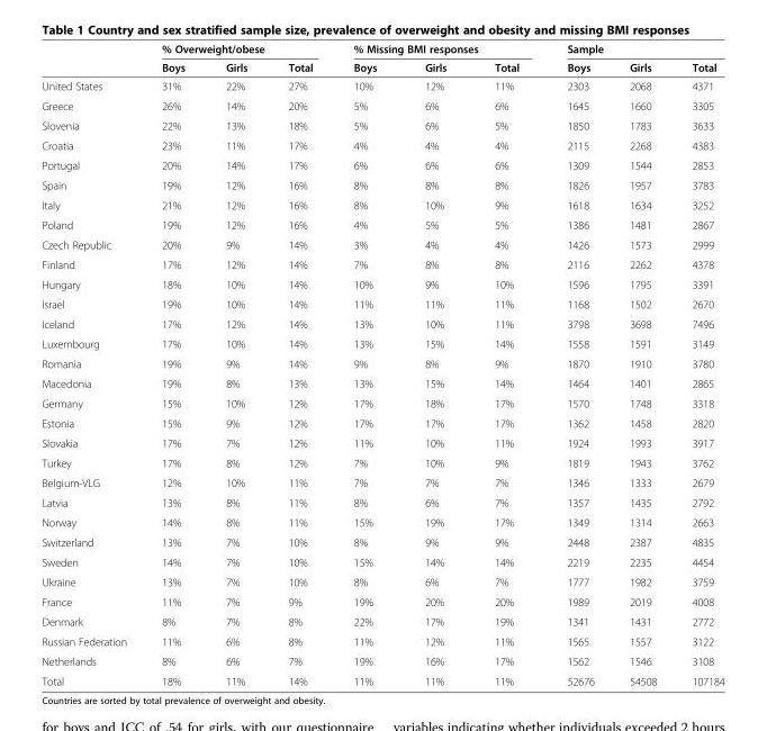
<table><thead><tr><td rowspan="2"></td><td colspan="3">% Overweight/obese</td><td colspan="3">% Missing BMI responses</td><td colspan="3">Sample</td></tr><tr><td>Boys</td><td>Girls</td><td>Total</td><td>Boys</td><td>Girls</td><td>Total</td><td>Boys</td><td>Girls</td><td>Total</td></tr></thead><tbody><tr><td>United States</td><td>31%</td><td>22%</td><td>27%</td><td>10%</td><td>12%</td><td>11%</td><td>2303</td><td>2068</td><td>4371</td></tr><tr><td>Greece</td><td>26%</td><td>14%</td><td>20%</td><td>5%</td><td>6%</td><td>6%</td><td>1645</td><td>1660</td><td>3305</td></tr><tr><td>Slovenia</td><td>22%</td><td>13%</td><td>18%</td><td>5%</td><td>6%</td><td>5%</td><td>1850</td><td>1783</td><td>3633</td></tr><tr><td>Croatia</td><td>23%</td><td>11%</td><td>17%</td><td>4%</td><td>4%</td><td>4%</td><td>2115</td><td>2268</td><td>4383</td></tr><tr><td>Portugal</td><td>20%</td><td>14%</td><td>17%</td><td>6%</td><td>6%</td><td>6%</td><td>1309</td><td>1544</td><td>2853</td></tr><tr><td>Spain</td><td>19%</td><td>12%</td><td>16%</td><td>8%</td><td>8%</td><td>8%</td><td>1826</td><td>1957</td><td>3783</td></tr><tr><td>Italy</td><td>21%</td><td>12%</td><td>16%</td><td>8%</td><td>10%</td><td>9%</td><td>1618</td><td>1634</td><td>3252</td></tr><tr><td>Poland</td><td>19%</td><td>12%</td><td>16%</td><td>4%</td><td>5%</td><td>5%</td><td>1386</td><td>1481</td><td>2867</td></tr><tr><td>Czech Republic</td><td>20%</td><td>9%</td><td>14%</td><td>3%</td><td>4%</td><td>4%</td><td>1426</td><td>1573</td><td>2999</td></tr><tr><td>Finland</td><td>17%</td><td>12%</td><td>14%</td><td>7%</td><td>8%</td><td>8%</td><td>2116</td><td>2262</td><td>4378</td></tr><tr><td>Hungary</td><td>18%</td><td>10%</td><td>14%</td><td>10%</td><td>9%</td><td>10%</td><td>1596</td><td>1795</td><td>3391</td></tr><tr><td>Israel</td><td>19%</td><td>10%</td><td>14%</td><td>11%</td><td>11%</td><td>11%</td><td>1168</td><td>1502</td><td>2670</td></tr><tr><td>Iceland</td><td>17%</td><td>12%</td><td>14%</td><td>13%</td><td>10%</td><td>11%</td><td>3798</td><td>3698</td><td>7496</td></tr><tr><td>Luxembourg</td><td>17%</td><td>10%</td><td>14%</td><td>13%</td><td>15%</td><td>14%</td><td>1558</td><td>1591</td><td>3149</td></tr><tr><td>Romania</td><td>19%</td><td>9%</td><td>14%</td><td>9%</td><td>8%</td><td>9%</td><td>1870</td><td>1910</td><td>3780</td></tr><tr><td>Macedonia</td><td>19%</td><td>8%</td><td>13%</td><td>13%</td><td>15%</td><td>14%</td><td>1464</td><td>1401</td><td>2865</td></tr><tr><td>Germany</td><td>15%</td><td>10%</td><td>12%</td><td>17%</td><td>18%</td><td>17%</td><td>1570</td><td>1748</td><td>3318</td></tr><tr><td>Estonia</td><td>15%</td><td>9%</td><td>12%</td><td>17%</td><td>17%</td><td>17%</td><td>1362</td><td>1458</td><td>2820</td></tr><tr><td>Slovakia</td><td>17%</td><td>7%</td><td>12%</td><td>11%</td><td>10%</td><td>11%</td><td>1924</td><td>1993</td><td>3917</td></tr><tr><td>Turkey</td><td>17%</td><td>8%</td><td>12%</td><td>7%</td><td>10%</td><td>9%</td><td>1819</td><td>1943</td><td>3762</td></tr><tr><td>Belgium-VLG</td><td>12%</td><td>10%</td><td>11%</td><td>7%</td><td>7%</td><td>7%</td><td>1346</td><td>1333</td><td>2679</td></tr><tr><td>Latvia</td><td>13%</td><td>8%</td><td>11%</td><td>8%</td><td>6%</td><td>7%</td><td>1357</td><td>1435</td><td>2792</td></tr><tr><td>Norway</td><td>14%</td><td>8%</td><td>11%</td><td>15%</td><td>19%</td><td>17%</td><td>1349</td><td>1314</td><td>2663</td></tr><tr><td>Switzerland</td><td>13%</td><td>7%</td><td>10%</td><td>8%</td><td>9%</td><td>9%</td><td>2448</td><td>2387</td><td>4835</td></tr><tr><td>Sweden</td><td>14%</td><td>7%</td><td>10%</td><td>15%</td><td>14%</td><td>14%</td><td>2219</td><td>2235</td><td>4454</td></tr><tr><td>Ukraine</td><td>13%</td><td>7%</td><td>10%</td><td>8%</td><td>6%</td><td>7%</td><td>1777</td><td>1982</td><td>3759</td></tr><tr><td>France</td><td>11%</td><td>7%</td><td>9%</td><td>19%</td><td>20%</td><td>20%</td><td>1989</td><td>2019</td><td>4008</td></tr><tr><td>Denmark</td><td>8%</td><td>7%</td><td>8%</td><td>22%</td><td>17%</td><td>19%</td><td>1341</td><td>1431</td><td>2772</td></tr><tr><td>Russian Federation</td><td>11%</td><td>6%</td><td>8%</td><td>11%</td><td>12%</td><td>11%</td><td>1565</td><td>1557</td><td>3122</td></tr><tr><td>Netherlands</td><td>8%</td><td>6%</td><td>7%</td><td>19%</td><td>16%</td><td>17%</td><td>1562</td><td>1546</td><td>3108</td></tr><tr><td>Total</td><td>18%</td><td>11%</td><td>14%</td><td>11%</td><td>11%</td><td>11%</td><td>52676</td><td>54508</td><td>107184</td></tr></tbody></table>